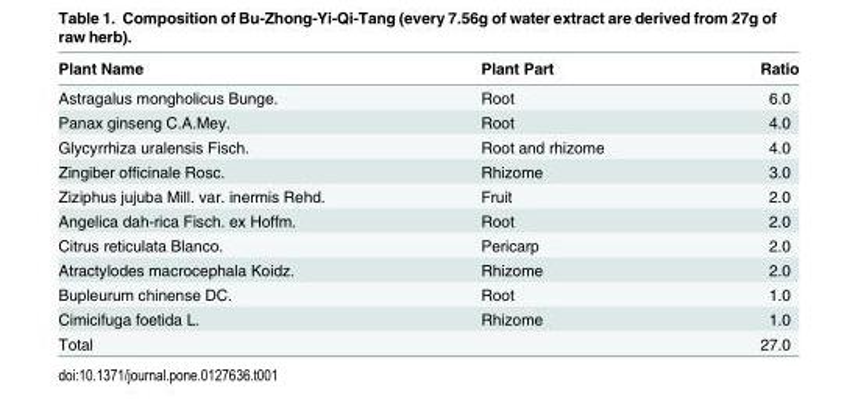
<table><thead><tr><td>Plant Name</td><td>Plant Part</td><td>Ratio</td></tr></thead><tbody><tr><td>Astragalus mongholicus Bunge.</td><td>Root</td><td>6.0</td></tr><tr><td>Panax ginseng C.A.Mey.</td><td>Root</td><td>4.0</td></tr><tr><td>Glycyrrhiza uralensis Fisch.</td><td>Root and rhizome</td><td>4.0</td></tr><tr><td>Zingiber officinale Rosc.</td><td>Rhizome</td><td>3.0</td></tr><tr><td>Ziziphus jujuba Mill. var. inermis Rehd.</td><td>Fruit</td><td>2.0</td></tr><tr><td>Angelica dah-rica Fisch. ex Hoffm.</td><td>Root</td><td>2.0</td></tr><tr><td>Citrus reticulata Blanco.</td><td>Pericarp</td><td>2.0</td></tr><tr><td>Atractylodes macrocephala Koidz.</td><td>Rhizome</td><td>2.0</td></tr><tr><td>Bupleurum chinense DC.</td><td>Root</td><td>1.0</td></tr><tr><td>Cimicifuga foetida L.</td><td>Rhizome</td><td>1.0</td></tr><tr><td>Total</td><td></td><td>27.0</td></tr></tbody></table>